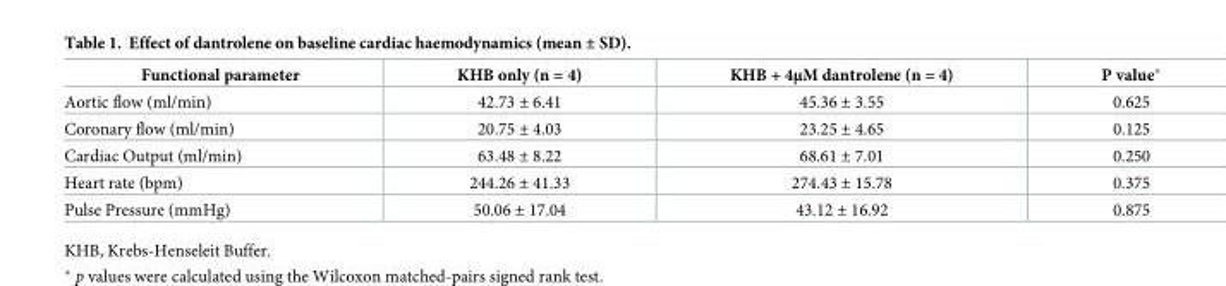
<table><thead><tr><td>Functional parameter</td><td>KHB only (n = 4)</td><td>KHB + 4μM dantrolene (n = 4)</td><td>P value*</td></tr></thead><tbody><tr><td>Aortic flow (ml/min)</td><td>42.73 ± 6.41</td><td>45.36 ± 3.55</td><td>0.625</td></tr><tr><td>Coronary flow (ml/min)</td><td>20.75 ± 4.03</td><td>23.25 ± 4.65</td><td>0.125</td></tr><tr><td>Cardiac Output (ml/min)</td><td>63.48 ± 8.22</td><td>68.61 ± 7.01</td><td>0.250</td></tr><tr><td>Heart rate (bpm)</td><td>244.26 ± 41.33</td><td>274.43 ± 15.78</td><td>0.375</td></tr><tr><td>Pulse Pressure (mmHg)</td><td>50.06 ± 17.04</td><td>43.12 ± 16.92</td><td>0.875</td></tr></tbody></table>